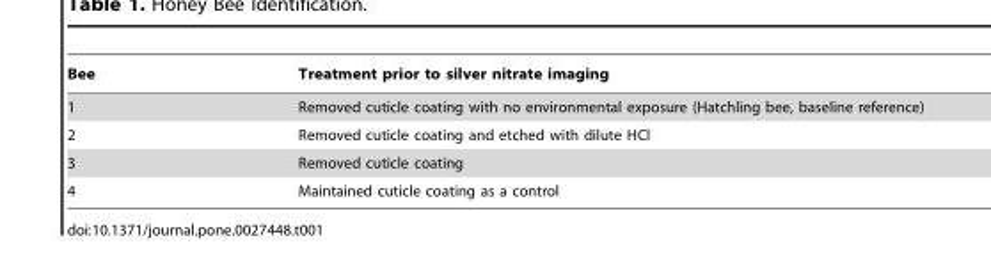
<table><thead><tr><td>Bee</td><td>Treatment prior to silver nitrate imaging</td></tr></thead><tbody><tr><td>1</td><td>Removed cuticle coating with no environmental exposure (Hatchling bee, baseline reference)</td></tr><tr><td>2</td><td>Removed cuticle coating and etched with dilute HCl</td></tr><tr><td>3</td><td>Removed cuticle coating</td></tr><tr><td>4</td><td>Maintained cuticle coating as a control</td></tr></tbody></table>